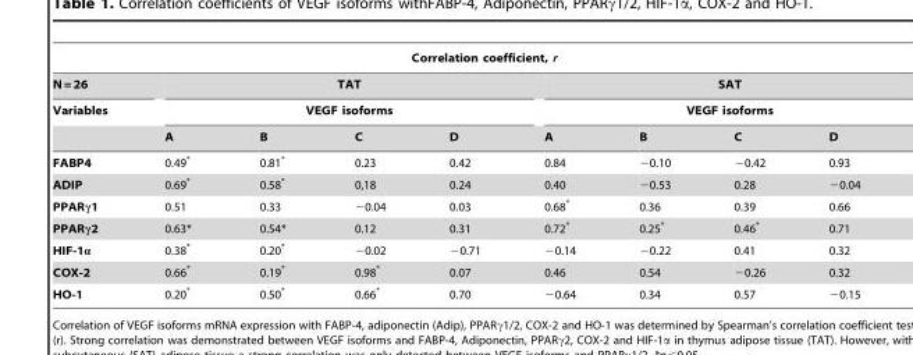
<table><thead><tr><td colspan="9">Correlation coefficient, r</td></tr><tr><td rowspan="3">N = 26 Variables</td><td rowspan="2" colspan="4">TAT VEGF isoforms</td><td rowspan="2" colspan="4">SAT VEGF isoforms</td></tr><tr></tr><tr><td>A</td><td>B</td><td>C</td><td>D</td><td>A</td><td>B</td><td>C</td><td>D</td></tr></thead><tbody><tr><td>FABP4</td><td>0.49*</td><td>0.81*</td><td>0.23</td><td>0.42</td><td>0.84</td><td>−0.10</td><td>−0.42</td><td>0.93</td></tr><tr><td>ADIP</td><td>0.69*</td><td>0.58*</td><td>0,18</td><td>0.24</td><td>0.40</td><td>−0.53</td><td>0.28</td><td>−0.04</td></tr><tr><td>PPARγ1</td><td>0.51</td><td>0.33</td><td>−0.04</td><td>0.03</td><td>0.68*</td><td>0.36</td><td>0.39</td><td>0.66</td></tr><tr><td>PPARγ2</td><td>0.63*</td><td>0.54*</td><td>0.12</td><td>0.31</td><td>0.72*</td><td>0.25*</td><td>0.46*</td><td>0.71</td></tr><tr><td>HIF-1α</td><td>0.38*</td><td>0.20*</td><td>−0.02</td><td>−0.71</td><td>−0.14</td><td>−0.22</td><td>0.41</td><td>0.32</td></tr><tr><td>COX-2</td><td>0.66*</td><td>0.19*</td><td>0.98*</td><td>0.07</td><td>0.46</td><td>0.54</td><td>−0.26</td><td>0.32</td></tr><tr><td>HO-1</td><td>0.20*</td><td>0.50*</td><td>0.66*</td><td>0.70</td><td>−0.64</td><td>0.34</td><td>0.57</td><td>−0.15</td></tr></tbody></table>